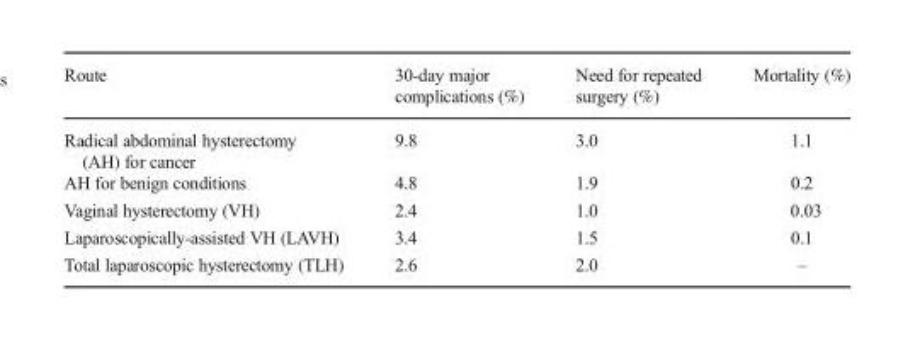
<table><thead><tr><td>Route</td><td>30-day major complications (%)</td><td>Need for repeated surgery (%)</td><td>Mortality (%)</td></tr></thead><tbody><tr><td>Radical abdominal hysterectomy (AH) for cancer</td><td>9.8</td><td>3.0</td><td>1.1</td></tr><tr><td>AH for benign conditions</td><td>4.8</td><td>1.9</td><td>0.2</td></tr><tr><td>Vaginal hysterectomy (VH)</td><td>2.4</td><td>1.0</td><td>0.03</td></tr><tr><td>Laparoscopically-assisted VH (LAVH)</td><td>3.4</td><td>1.5</td><td>0.1</td></tr><tr><td>Total laparoscopic hysterectomy (TLH)</td><td>2.6</td><td>2.0</td><td>–</td></tr></tbody></table>